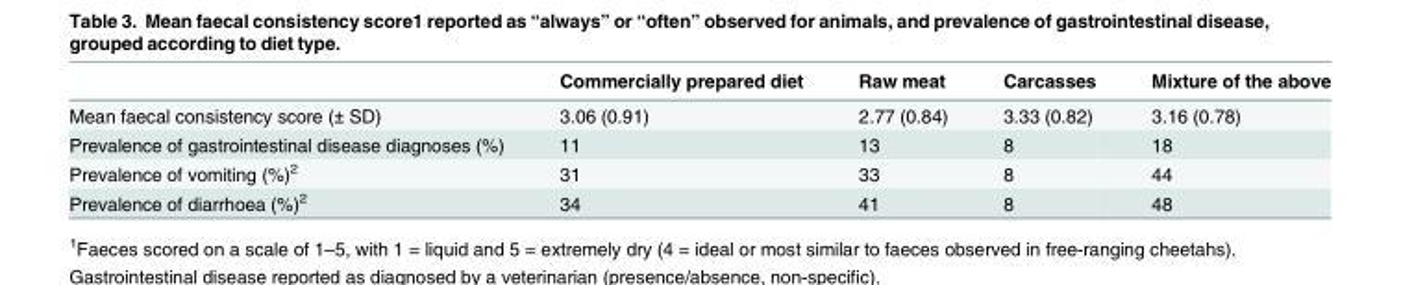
<table><thead><tr><td></td><td>Commercially prepared diet</td><td>Raw meat</td><td>Carcasses</td><td>Mixture of the above</td></tr></thead><tbody><tr><td>Mean faecal consistency score (± SD)</td><td>3.06 (0.91)</td><td>2.77 (0.84)</td><td>3.33 (0.82)</td><td>3.16 (0.78)</td></tr><tr><td>Prevalence of gastrointestinal disease diagnoses (%)</td><td>11</td><td>13</td><td>8</td><td>18</td></tr><tr><td>Prevalence of vomiting (%)<sup>2</sup></td><td>31</td><td>33</td><td>8</td><td>44</td></tr><tr><td>Prevalence of diarrhoea (%)<sup>2</sup></td><td>34</td><td>41</td><td>8</td><td>48</td></tr></tbody></table>